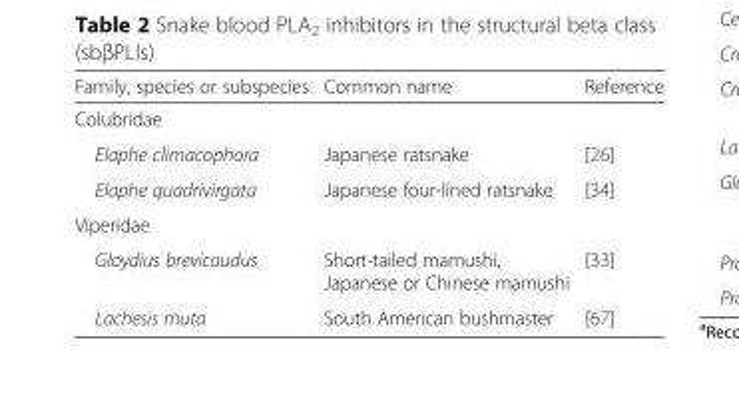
<table><thead><tr><td>Family, species or subspecies</td><td>Common name</td><td>Reference</td></tr></thead><tbody><tr><td colspan="3">Colubridae</td></tr><tr><td>Elaphe climacophora</td><td>Japanese ratsnake</td><td>[26]</td></tr><tr><td>Elaphe quadrivirgata</td><td>Japanese four-lined ratsnake</td><td>[34]</td></tr><tr><td colspan="3">Viperidae</td></tr><tr><td>Gloydius brevicaudus</td><td>Short-tailed mamushi, Japanese or Chinese mamushi</td><td>[33]</td></tr><tr><td>Lachesis muta</td><td>South American bushmaster</td><td>[67]</td></tr></tbody></table>